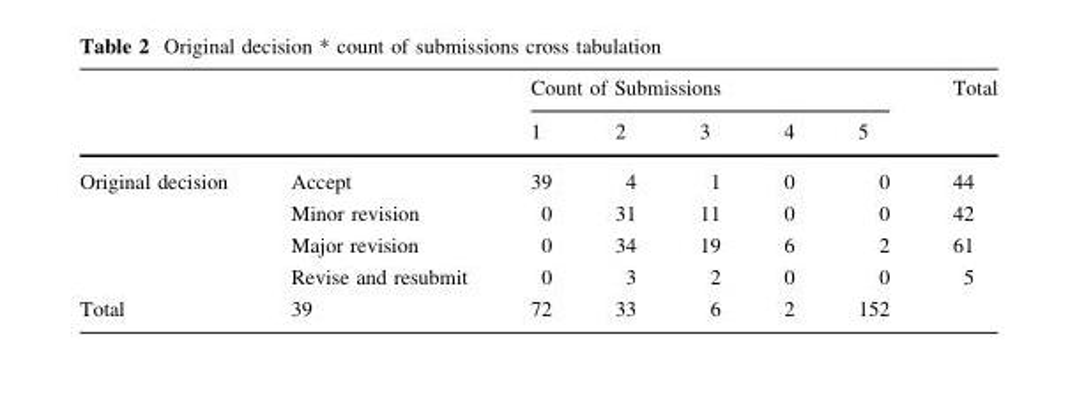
<table><thead><tr><td rowspan="2"></td><td rowspan="2"></td><td colspan="5">Count of Submissions</td><td rowspan="2">Total</td></tr><tr><td>1</td><td>2</td><td>3</td><td>4</td><td>5</td></tr></thead><tbody><tr><td rowspan="4">Original decision</td><td>Accept</td><td>39</td><td>4</td><td>1</td><td>0</td><td>0</td><td>44</td></tr><tr><td>Minor revision</td><td>0</td><td>31</td><td>11</td><td>0</td><td>0</td><td>42</td></tr><tr><td>Major revision</td><td>0</td><td>34</td><td>19</td><td>6</td><td>2</td><td>61</td></tr><tr><td>Revise and resubmit</td><td>0</td><td>3</td><td>2</td><td>0</td><td>0</td><td>5</td></tr><tr><td>Total</td><td>39</td><td>72</td><td>33</td><td>6</td><td>2</td><td>152</td><td></td></tr></tbody></table>